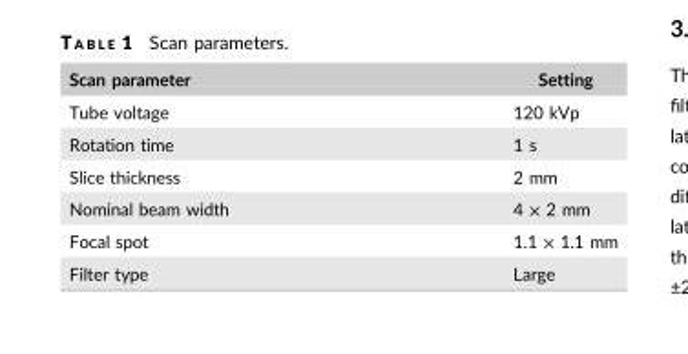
<table><thead><tr><td>Scan parameter</td><td>Setting</td></tr></thead><tbody><tr><td>Tube voltage</td><td>120 kVp</td></tr><tr><td>Rotation time</td><td>1 s</td></tr><tr><td>Slice thickness</td><td>2 mm</td></tr><tr><td>Nominal beam width</td><td>4 × 2 mm</td></tr><tr><td>Focal spot</td><td>1.1 × 1.1 mm</td></tr><tr><td>Filter type</td><td>Large</td></tr></tbody></table>